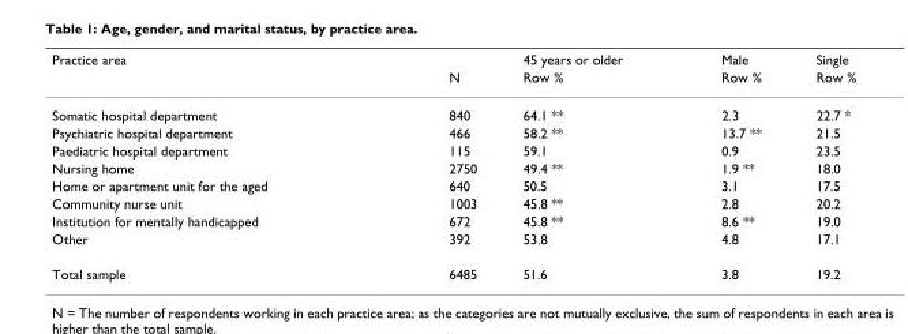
<table><thead><tr><td rowspan="2">Practice area</td><td rowspan="2">N</td><td rowspan="2">45 years or older Row %</td><td rowspan="2">Male Row %</td><td rowspan="2">Single Row %</td></tr><tr></tr></thead><tbody><tr><td>Somatic hospital department</td><td>840</td><td>64.1 **</td><td>2.3</td><td>22.7 *</td></tr><tr><td>Psychiatric hospital department</td><td>466</td><td>58.2 **</td><td>13.7 **</td><td>21.5</td></tr><tr><td>Paediatric hospital department</td><td>115</td><td>59.1</td><td>0.9</td><td>23.5</td></tr><tr><td>Nursing home</td><td>2750</td><td>49.4 **</td><td>1.9 **</td><td>18.0</td></tr><tr><td>Home or apartment unit for the aged</td><td>640</td><td>50.5</td><td>3.1</td><td>17.5</td></tr><tr><td>Community nurse unit</td><td>1003</td><td>45.8 **</td><td>2.8</td><td>20.2</td></tr><tr><td>Institution for mentally handicapped</td><td>672</td><td>45.8 **</td><td>8.6 **</td><td>19.0</td></tr><tr><td>Other</td><td>392</td><td>53.8</td><td>4.8</td><td>17.1</td></tr><tr><td>Total sample</td><td>6485</td><td>51.6</td><td>3.8</td><td>19.2</td></tr></tbody></table>